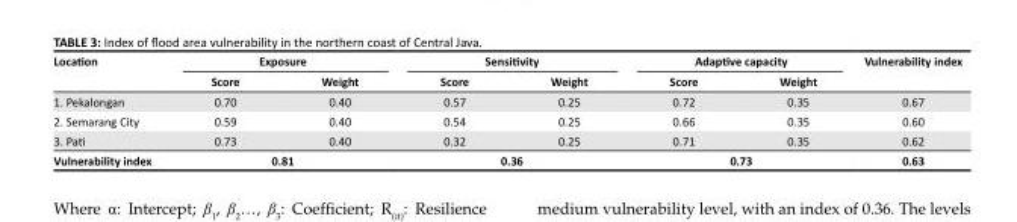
<table><thead><tr><td rowspan="2">Location</td><td colspan="2">Exposure</td><td colspan="2">Sensitivity</td><td colspan="2">Adaptive capacity</td><td rowspan="2">Vulnerability index</td></tr><tr><td>Score</td><td>Weight</td><td>Score</td><td>Weight</td><td>Score</td><td>Weight</td></tr></thead><tbody><tr><td>1. Pekalongan</td><td>0.70</td><td>0.40</td><td>0.57</td><td>0.25</td><td>0.72</td><td>0.35</td><td>0.67</td></tr><tr><td>2. Semarang City</td><td>0.59</td><td>0.40</td><td>0.54</td><td>0.25</td><td>0.66</td><td>0.35</td><td>0.60</td></tr><tr><td>3. Pati</td><td>0.73</td><td>0.40</td><td>0.32</td><td>0.25</td><td>0.71</td><td>0.35</td><td>0.62</td></tr><tr><td>Vulnerability index</td><td colspan="2">0.81</td><td colspan="2">0.36</td><td colspan="2">0.73</td><td>0.63</td></tr></tbody></table>